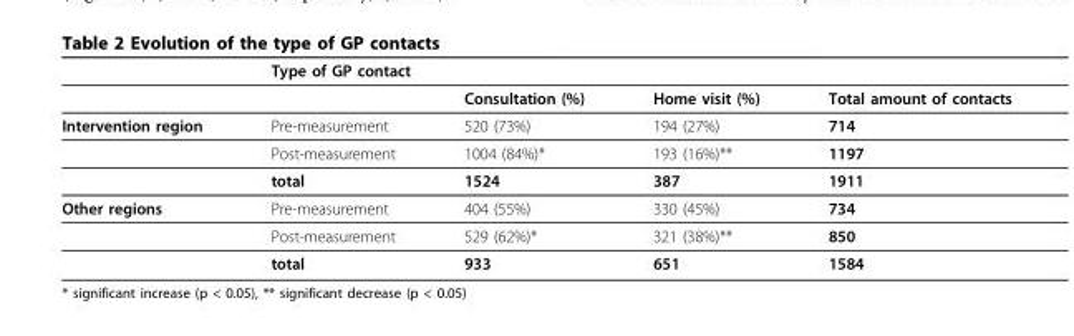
<table><thead><tr><td rowspan="2"></td><td colspan="3">Type of GP contact</td><td rowspan="2">Total amount of contacts</td></tr><tr><td></td><td>Consultation (%)</td><td>Home visit (%)</td></tr></thead><tbody><tr><td rowspan="3">Intervention region</td><td>Pre-measurement</td><td>520 (73%)</td><td>194 (27%)</td><td>714</td></tr><tr><td>Post-measurement</td><td>1004 (84%)*</td><td>193 (16%)**</td><td>1197</td></tr><tr><td>total</td><td>1524</td><td>387</td><td>1911</td></tr><tr><td rowspan="3">Other regions</td><td>Pre-measurement</td><td>404 (55%)</td><td>330 (45%)</td><td>734</td></tr><tr><td>Post-measurement</td><td>529 (62%)*</td><td>321 (38%)**</td><td>850</td></tr><tr><td>total</td><td>933</td><td>651</td><td>1584</td></tr></tbody></table>